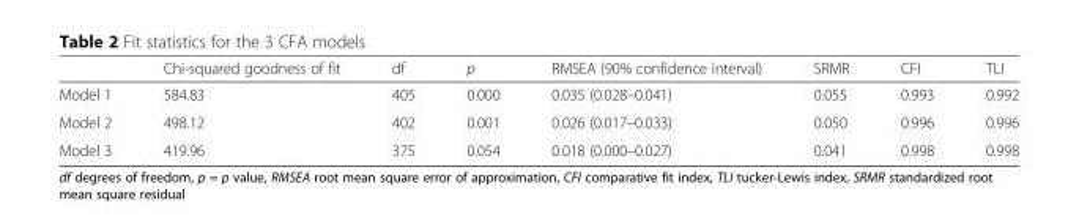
<table><thead><tr><td></td><td>Chi-squared goodness of fit</td><td>df</td><td>p</td><td>RMSEA (90% confidence interval)</td><td>SRMR</td><td>CFI</td><td>TLI</td></tr></thead><tbody><tr><td>Model 1</td><td>584.83</td><td>405</td><td>0.000</td><td>0.035 (0.028–0.041)</td><td>0.055</td><td>0.993</td><td>0.992</td></tr><tr><td>Model 2</td><td>498.12</td><td>402</td><td>0.001</td><td>0.026 (0.017–0.033)</td><td>0.050</td><td>0.996</td><td>0.996</td></tr><tr><td>Model 3</td><td>419.96</td><td>375</td><td>0.054</td><td>0.018 (0.000–0.027)</td><td>0.041</td><td>0.998</td><td>0.998</td></tr></tbody></table>